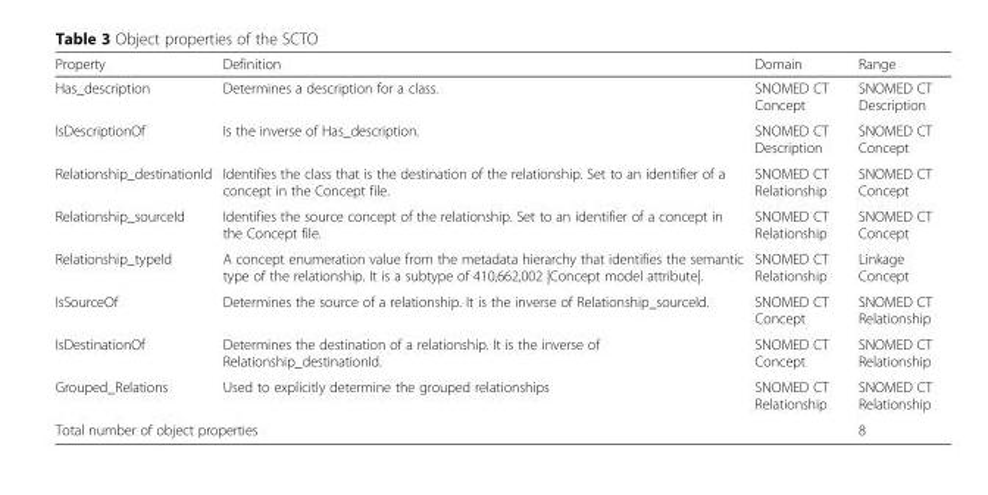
<table><thead><tr><td>Property</td><td>Definition</td><td>Domain</td><td>Range</td></tr></thead><tbody><tr><td>Has_description</td><td>Determines a description for a class.</td><td>SNOMED CT Concept</td><td>SNOMED CT Description</td></tr><tr><td>IsDescriptionOf</td><td>Is the inverse of Has_description.</td><td>SNOMED CT Description</td><td>SNOMED CT Concept</td></tr><tr><td>Relationship_destinationId</td><td>Identifies the class that is the destination of the relationship. Set to an identifier of a concept in the Concept file.</td><td>SNOMED CT Relationship</td><td>SNOMED CT Concept</td></tr><tr><td>Relationship_sourceId</td><td>Identifies the source concept of the relationship. Set to an identifier of a concept in the Concept file.</td><td>SNOMED CT Relationship</td><td>SNOMED CT Concept</td></tr><tr><td>Relationship_typeId</td><td>A concept enumeration value from the metadata hierarchy that identifies the semantic type of the relationship. It is a subtype of 410,662,002 |Concept model attribute|.</td><td>SNOMED CT Relationship</td><td>Linkage Concept</td></tr><tr><td>IsSourceOf</td><td>Determines the source of a relationship. It is the inverse of Relationship_sourceId.</td><td>SNOMED CT Concept</td><td>SNOMED CT Relationship</td></tr><tr><td>IsDestinationOf</td><td>Determines the destination of a relationship. It is the inverse of Relationship_destinationId.</td><td>SNOMED CT Concept</td><td>SNOMED CT Relationship</td></tr><tr><td>Grouped_Relations</td><td>Used to explicitly determine the grouped relationships</td><td>SNOMED CT Relationship</td><td>SNOMED CT Relationship</td></tr><tr><td colspan="3">Total number of object properties</td><td>8</td></tr></tbody></table>